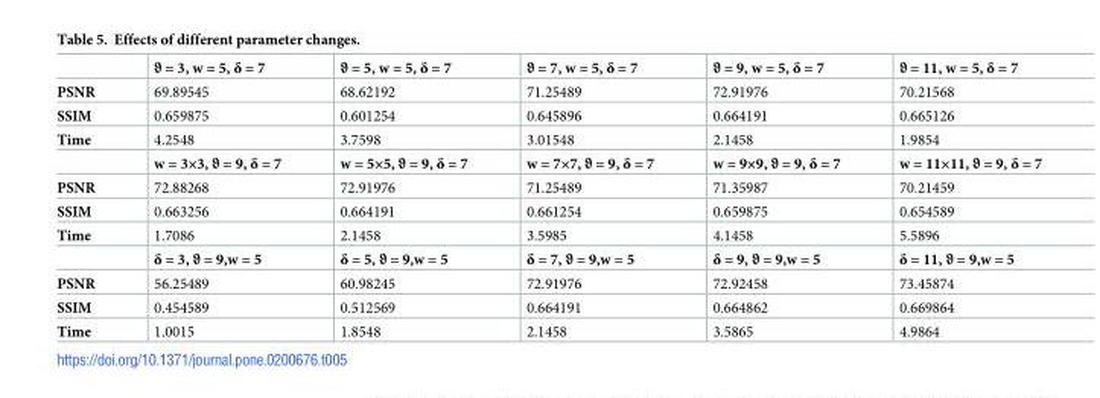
<table><thead><tr><td></td><td>ϑ = 3, w = 5, δ = 7</td><td>ϑ = 5, w = 5, δ = 7</td><td>ϑ = 7, w = 5, δ = 7</td><td>ϑ = 9, w = 5, δ = 7</td><td>ϑ = 11, w = 5, δ = 7</td></tr></thead><tbody><tr><td>PSNR</td><td>69.89545</td><td>68.62192</td><td>71.25489</td><td>72.91976</td><td>70.21568</td></tr><tr><td>SSIM</td><td>0.659875</td><td>0.601254</td><td>0.645896</td><td>0.664191</td><td>0.665126</td></tr><tr><td rowspan="2">Time</td><td>4.2548</td><td>3.7598</td><td>3.01548</td><td>2.1458</td><td>1.9854</td></tr><tr><td>w = 3×3, ϑ = 9, δ = 7</td><td>w = 5×5, ϑ = 9, δ = 7</td><td>w = 7×7, ϑ = 9, δ = 7</td><td>w = 9×9, ϑ = 9, δ = 7</td><td>w = 11×11, ϑ = 9, δ = 7</td></tr><tr><td>PSNR</td><td>72.88268</td><td>72.91976</td><td>71.25489</td><td>71.35987</td><td>70.21459</td></tr><tr><td>SSIM</td><td>0.663256</td><td>0.664191</td><td>0.661254</td><td>0.659875</td><td>0.654589</td></tr><tr><td rowspan="2">Time</td><td>1.7086</td><td>2.1458</td><td>3.5985</td><td>4.1458</td><td>5.5896</td></tr><tr><td>δ = 3, ϑ = 9,w = 5</td><td>δ = 5, ϑ = 9,w = 5</td><td>δ = 7, ϑ = 9,w = 5</td><td>δ = 9, ϑ = 9,w = 5</td><td>δ = 11, ϑ = 9,w = 5</td></tr><tr><td>PSNR</td><td>56.25489</td><td>60.98245</td><td>72.91976</td><td>72.92458</td><td>73.45874</td></tr><tr><td>SSIM</td><td>0.454589</td><td>0.512569</td><td>0.664191</td><td>0.664862</td><td>0.669864</td></tr><tr><td>Time</td><td>1.0015</td><td>1.8548</td><td>2.1458</td><td>3.5865</td><td>4.9864</td></tr></tbody></table>